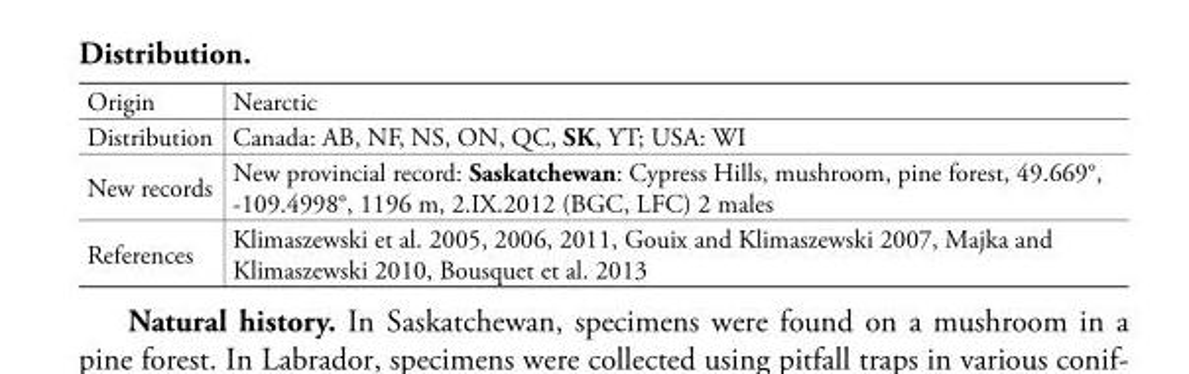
<table><tbody><tr><td>Origin</td><td>Nearctic</td></tr><tr><td>Distribution</td><td>Canada: AB, NF, NS, ON, QC, SK, YT; USA: WI</td></tr><tr><td>New records</td><td>New provincial record: Saskatchewan: Cypress Hills, mushroom, pine forest, 49.669°, -109.4998°, 1196 m, 2.IX.2012 (BGC, LFC) 2 males</td></tr><tr><td>References</td><td>Klimaszewski et al. 2005, 2006, 2011, Gouix and Klimaszewski 2007, Majka and Klimaszewski 2010, Bousquet et al. 2013</td></tr></tbody></table>